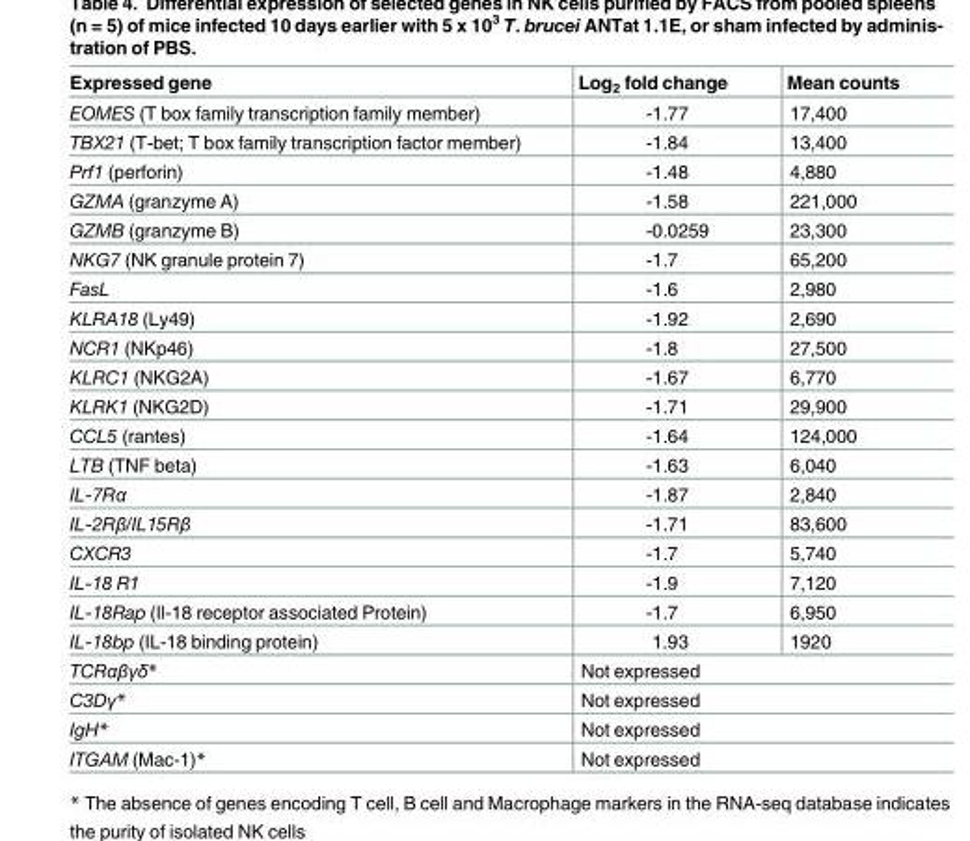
<table><thead><tr><td>Expressed gene</td><td>Log<sub>2</sub> fold change</td><td>Mean counts</td></tr></thead><tbody><tr><td>EOMES (T box family transcription family member)</td><td>-1.77</td><td>17,400</td></tr><tr><td>TBX21 (T-bet; T box family transcription factor member)</td><td>-1.84</td><td>13,400</td></tr><tr><td>Prf1 (perforin)</td><td>-1.48</td><td>4,880</td></tr><tr><td>GZMA (granzyme A)</td><td>-1.58</td><td>221,000</td></tr><tr><td>GZMB (granzyme B)</td><td>-0.0259</td><td>23,300</td></tr><tr><td>NKG7 (NK granule protein 7)</td><td>-1.7</td><td>65,200</td></tr><tr><td>FasL</td><td>-1.6</td><td>2,980</td></tr><tr><td>KLRA18 (Ly49)</td><td>-1.92</td><td>2,690</td></tr><tr><td>NCR1 (NKp46)</td><td>-1.8</td><td>27,500</td></tr><tr><td>KLRC1 (NKG2A)</td><td>-1.67</td><td>6,770</td></tr><tr><td>KLRK1 (NKG2D)</td><td>-1.71</td><td>29,900</td></tr><tr><td>CCL5 (rantes)</td><td>-1.64</td><td>124,000</td></tr><tr><td>LTB (TNF beta)</td><td>-1.63</td><td>6,040</td></tr><tr><td>IL-7Rα</td><td>-1.87</td><td>2,840</td></tr><tr><td>IL-2Rβ/IL15Rβ</td><td>-1.71</td><td>83,600</td></tr><tr><td>CXCR3</td><td>-1.7</td><td>5,740</td></tr><tr><td>IL-18 R1</td><td>-1.9</td><td>7,120</td></tr><tr><td>IL-18Rap (Il-18 receptor associated Protein)</td><td>-1.7</td><td>6,950</td></tr><tr><td>IL-18bp (IL-18 binding protein)</td><td>1.93</td><td>1920</td></tr><tr><td>TCRαβγδ*</td><td colspan="2">Not expressed</td></tr><tr><td>C3Dγ*</td><td colspan="2">Not expressed</td></tr><tr><td>IgH*</td><td colspan="2">Not expressed</td></tr><tr><td>ITGAM (Mac-1)*</td><td colspan="2">Not expressed</td></tr></tbody></table>